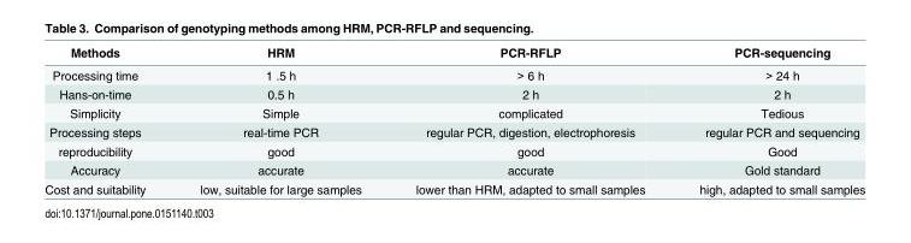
<table><thead><tr><td>Methods</td><td>HRM</td><td>PCR-RFLP</td><td>PCR-sequencing</td></tr></thead><tbody><tr><td>Processing time</td><td>1 .5 h</td><td>&gt; 6 h</td><td>&gt; 24 h</td></tr><tr><td>Hans-on-time</td><td>0.5 h</td><td>2 h</td><td>2 h</td></tr><tr><td>Simplicity</td><td>Simple</td><td>complicated</td><td>Tedious</td></tr><tr><td>Processing steps</td><td>real-time PCR</td><td>regular PCR, digestion, electrophoresis</td><td>regular PCR and sequencing</td></tr><tr><td>reproducibility</td><td>good</td><td>good</td><td>Good</td></tr><tr><td>Accuracy</td><td>accurate</td><td>accurate</td><td>Gold standard</td></tr><tr><td>Cost and suitability</td><td>low, suitable for large samples</td><td>lower than HRM, adapted to small samples</td><td>high, adapted to small samples</td></tr></tbody></table>